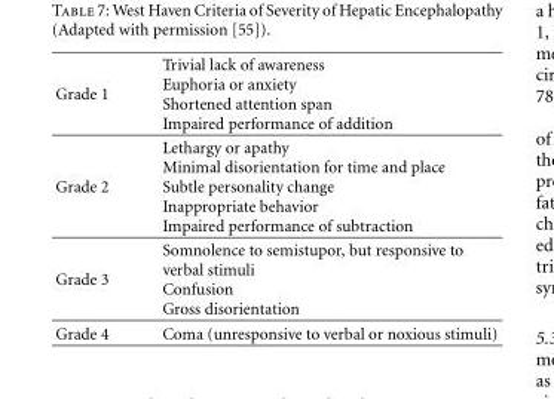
<table><tbody><tr><td>Grade 1</td><td>Trivial lack of awareness Euphoria or anxiety Shortened attention span Impaired performance of addition</td></tr><tr><td>Grade 2</td><td>Lethargy or apathy Minimal disorientation for time and place Subtle personality change Inappropriate behavior Impaired performance of subtraction</td></tr><tr><td>Grade 3</td><td>Somnolence to semistupor, but responsive to verbal stimuli Confusion Gross disorientation</td></tr><tr><td>Grade 4</td><td>Coma (unresponsive to verbal or noxious stimuli)</td></tr></tbody></table>